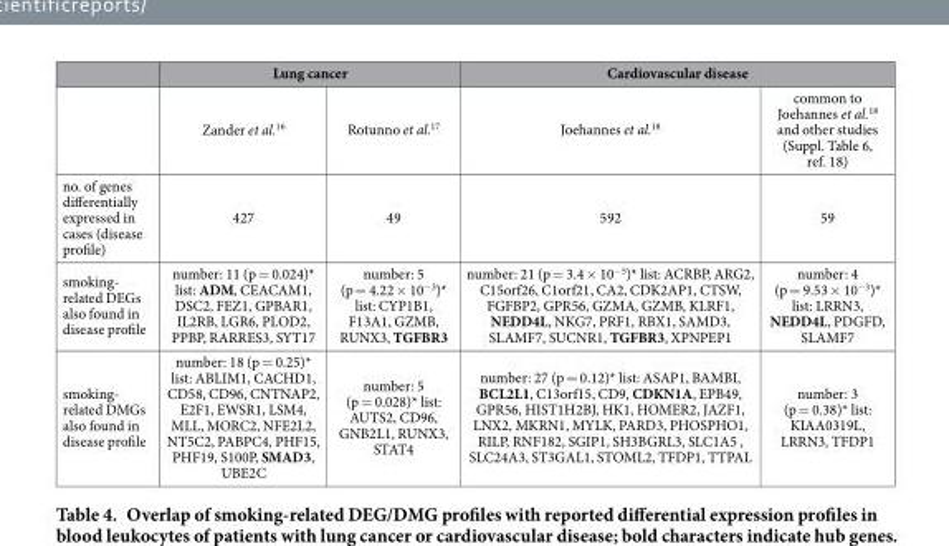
<table><thead><tr><td rowspan="2"></td><td colspan="2">Lung cancer</td><td colspan="2">Cardiovascular disease</td></tr><tr><td>Zander et al.<sup>16</sup></td><td>Rotunno et al.<sup>17</sup></td><td>Joehannes et al.<sup>18</sup></td><td>common to Joehannes et al.<sup>18</sup> and other studies (Suppl. Table 6, ref. 18)</td></tr></thead><tbody><tr><td>no. of genes differentially expressed in cases (disease profile)</td><td>427</td><td>49</td><td>592</td><td>59</td></tr><tr><td>smoking- related DEGs also found in disease profile</td><td>number: 11 (p = 0.024)* list: ADM, CEACAM1, DSC2, FEZ1, GPBAR1, IL2RB, LGR6, PLOD2, PPBP, RARRES3, SYT17</td><td>number: 5 (p = 4.22 × 10<sup>−3</sup>)* list: CYP1B1, F13A1, GZMB, RUNX3, TGFBR3</td><td>number: 21 (p = 3.4 × 10<sup>−5</sup>)* list: ACRBP, ARG2, C15orf26, C1orf21, CA2, CDK2AP1, CTSW, FGFBP2, GPR56, GZMA, GZMB, KLRF1, NEDD4L, NKG7, PRF1, RBX1, SAMD3, SLAMF7, SUCNR1, TGFBR3, XPNPEP1</td><td>number: 4 (p = 9.53 × 10<sup>−3</sup>)* list: LRRN3, NEDD4L, PDGFD, SLAMF7</td></tr><tr><td>smoking- related DMGs also found in disease profile</td><td>number: 18 (p = 0.25)* list: ABLIM1, CACHD1, CD58, CD96, CNTNAP2, E2F1, EWSR1, LSM4, MLL, MORC2, NFE2L2, NT5C2, PABPC4, PHF15, PHF19, S100P, SMAD3, UBE2C</td><td>number: 5 (p = 0.028)* list: AUTS2, CD96, GNB2L1, RUNX3, STAT4</td><td>number: 27 (p = 0.12)* list: ASAP1, BAMBI, BCL2L1, C13orf15, CD9, CDKN1A, EPB49, GPR56, HIST1H2BJ, HK1, HOMER2, JAZF1, LNX2, MKRN1, MYLK, PARD3, PHOSPHO1, RILP, RNF182, SGIP1, SH3BGRL3, SLC1A5 , SLC24A3, ST3GAL1, STOML2, TFDP1, TTPAL</td><td>number: 3 (p = 0.38)* list: KIAA0319L, LRRN3, TFDP1</td></tr></tbody></table>